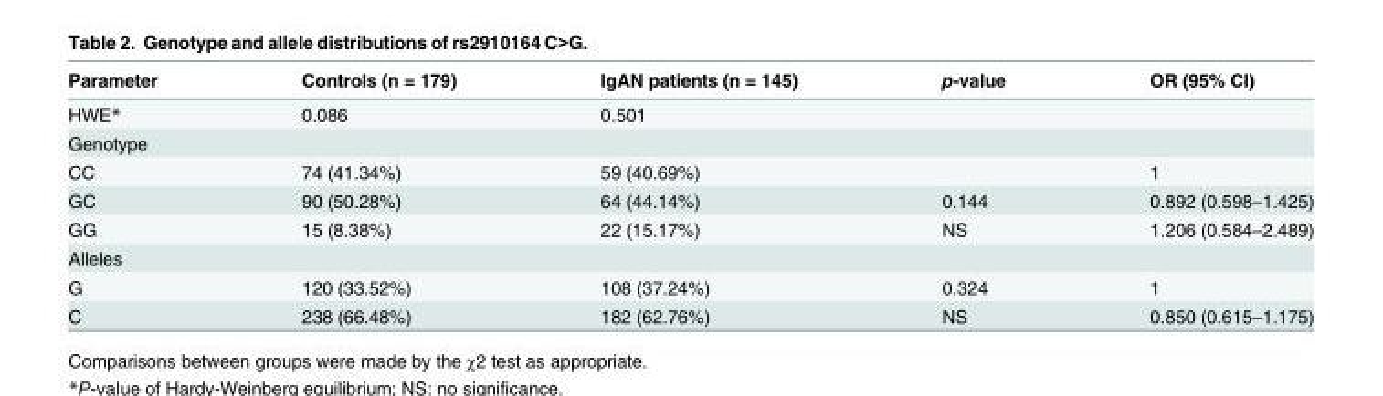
<table><thead><tr><td>Parameter</td><td>Controls (n = 179)</td><td>IgAN patients (n = 145)</td><td>p-value</td><td>OR (95% CI)</td></tr></thead><tbody><tr><td>HWE*</td><td>0.086</td><td>0.501</td><td></td><td></td></tr><tr><td colspan="5">Genotype</td></tr><tr><td>CC</td><td>74 (41.34%)</td><td>59 (40.69%)</td><td></td><td>1</td></tr><tr><td>GC</td><td>90 (50.28%)</td><td>64 (44.14%)</td><td>0.144</td><td>0.892 (0.598–1.425)</td></tr><tr><td>GG</td><td>15 (8.38%)</td><td>22 (15.17%)</td><td>NS</td><td>1.206 (0.584–2.489)</td></tr><tr><td colspan="5">Alleles</td></tr><tr><td>G</td><td>120 (33.52%)</td><td>108 (37.24%)</td><td>0.324</td><td>1</td></tr><tr><td>C</td><td>238 (66.48%)</td><td>182 (62.76%)</td><td>NS</td><td>0.850 (0.615–1.175)</td></tr></tbody></table>